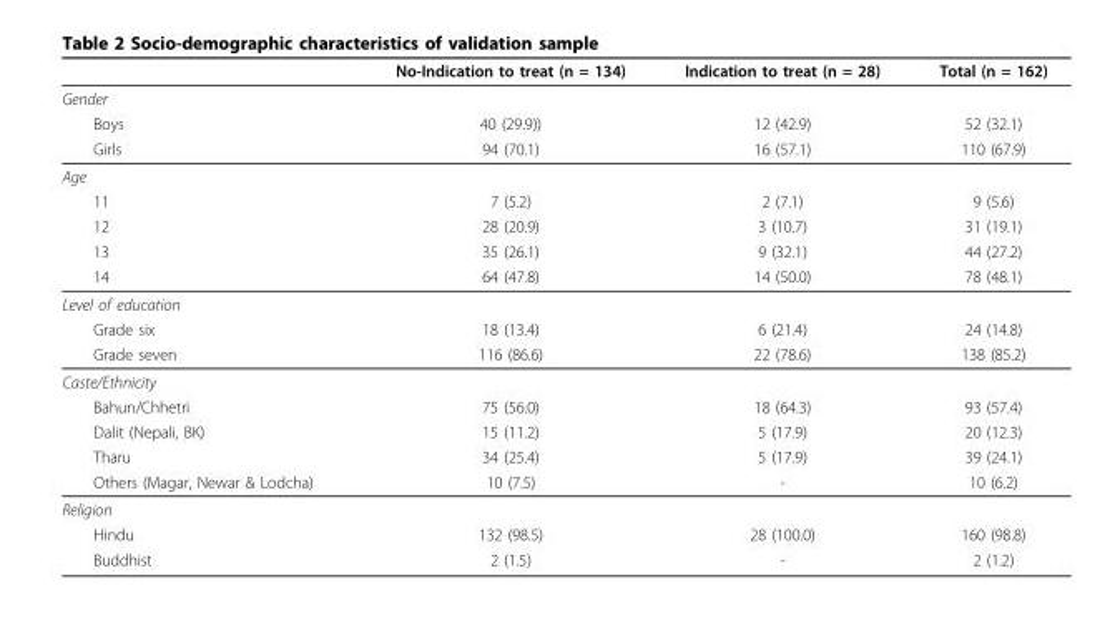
<table><thead><tr><td></td><td>No-Indication to treat (n = 134)</td><td>Indication to treat (n = 28)</td><td>Total (n = 162)</td></tr></thead><tbody><tr><td colspan="4">Gender</td></tr><tr><td>Boys</td><td>40 (29.9))</td><td>12 (42.9)</td><td>52 (32.1)</td></tr><tr><td>Girls</td><td>94 (70.1)</td><td>16 (57.1)</td><td>110 (67.9)</td></tr><tr><td colspan="4">Age</td></tr><tr><td>11</td><td>7 (5.2)</td><td>2 (7.1)</td><td>9 (5.6)</td></tr><tr><td>12</td><td>28 (20.9)</td><td>3 (10.7)</td><td>31 (19.1)</td></tr><tr><td>13</td><td>35 (26.1)</td><td>9 (32.1)</td><td>44 (27.2)</td></tr><tr><td>14</td><td>64 (47.8)</td><td>14 (50.0)</td><td>78 (48.1)</td></tr><tr><td colspan="4">Level of education</td></tr><tr><td>Grade six</td><td>18 (13.4)</td><td>6 (21.4)</td><td>24 (14.8)</td></tr><tr><td>Grade seven</td><td>116 (86.6)</td><td>22 (78.6)</td><td>138 (85.2)</td></tr><tr><td colspan="4">Caste/Ethnicity</td></tr><tr><td>Bahun/Chhetri</td><td>75 (56.0)</td><td>18 (64.3)</td><td>93 (57.4)</td></tr><tr><td>Dalit (Nepali, BK)</td><td>15 (11.2)</td><td>5 (17.9)</td><td>20 (12.3)</td></tr><tr><td>Tharu</td><td>34 (25.4)</td><td>5 (17.9)</td><td>39 (24.1)</td></tr><tr><td>Others (Magar, Newar &amp; Lodcha)</td><td>10 (7.5)</td><td>-</td><td>10 (6.2)</td></tr><tr><td colspan="4">Religion</td></tr><tr><td>Hindu</td><td>132 (98.5)</td><td>28 (100.0)</td><td>160 (98.8)</td></tr><tr><td>Buddhist</td><td>2 (1.5)</td><td>-</td><td>2 (1.2)</td></tr></tbody></table>